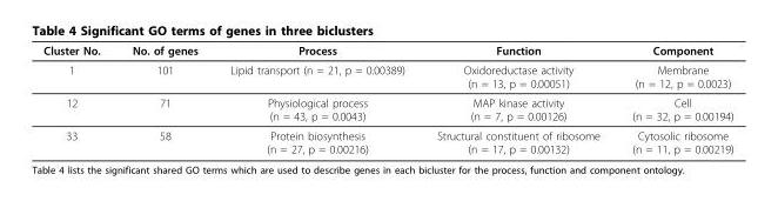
<table><thead><tr><td>Cluster No.</td><td>No. of genes</td><td>Process</td><td>Function</td><td>Component</td></tr></thead><tbody><tr><td>1</td><td>101</td><td>Lipid transport (n = 21, p = 0.00389)</td><td>Oxidoreductase activity (n = 13, p = 0.00051)</td><td>Membrane (n = 12, p = 0.0023)</td></tr><tr><td>12</td><td>71</td><td>Physiological process (n = 43, p = 0.0043)</td><td>MAP kinase activity (n = 7, p = 0.00126)</td><td>Cell (n = 32, p = 0.00194)</td></tr><tr><td>33</td><td>58</td><td>Protein biosynthesis (n = 27, p = 0.00216)</td><td>Structural constituent of ribosome (n = 17, p = 0.00132)</td><td>Cytosolic ribosome (n = 11, p = 0.00219)</td></tr></tbody></table>